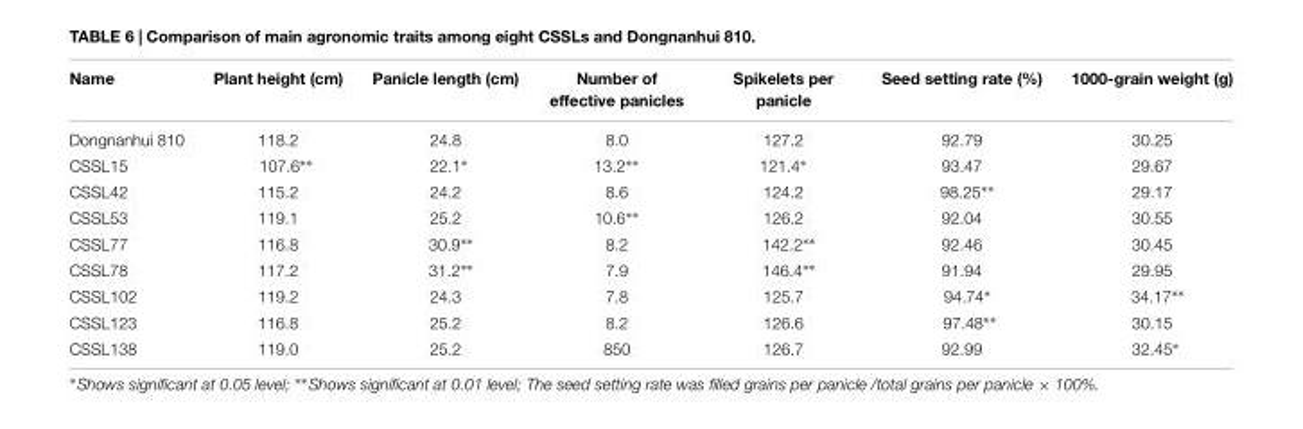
<table><thead><tr><td>Name</td><td>Plant height (cm)</td><td>Panicle length (cm)</td><td>Number of effective panicles</td><td>Spikelets per panicle</td><td>Seed setting rate (%)</td><td>1000-grain weight (g)</td></tr></thead><tbody><tr><td>Dongnanhui 810</td><td>118.2</td><td>24.8</td><td>8.0</td><td>127.2</td><td>92.79</td><td>30.25</td></tr><tr><td>CSSL15</td><td>107.6∗∗</td><td>22.1∗</td><td>13.2∗∗</td><td>121.4∗</td><td>93.47</td><td>29.67</td></tr><tr><td>CSSL42</td><td>115.2</td><td>24.2</td><td>8.6</td><td>124.2</td><td>98.25∗∗</td><td>29.17</td></tr><tr><td>CSSL53</td><td>119.1</td><td>25.2</td><td>10.6∗∗</td><td>126.2</td><td>92.04</td><td>30.55</td></tr><tr><td>CSSL77</td><td>116.8</td><td>30.9∗∗</td><td>8.2</td><td>142.2∗∗</td><td>92.46</td><td>30.45</td></tr><tr><td>CSSL78</td><td>117.2</td><td>31.2∗∗</td><td>7.9</td><td>146.4∗∗</td><td>91.94</td><td>29.95</td></tr><tr><td>CSSL102</td><td>119.2</td><td>24.3</td><td>7.8</td><td>125.7</td><td>94.74∗</td><td>34.17∗∗</td></tr><tr><td>CSSL123</td><td>116.8</td><td>25.2</td><td>8.2</td><td>126.6</td><td>97.48∗∗</td><td>30.15</td></tr><tr><td>CSSL138</td><td>119.0</td><td>25.2</td><td>850</td><td>126.7</td><td>92.99</td><td>32.45∗</td></tr></tbody></table>